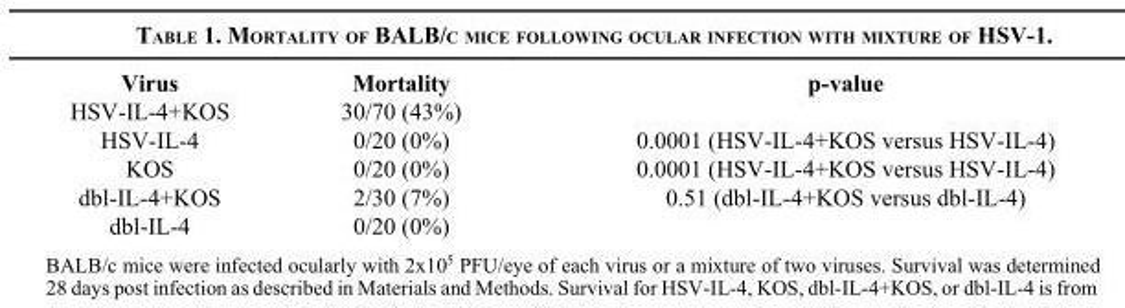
<table><thead><tr><td>Virus</td><td>Mortality</td><td>p-value</td></tr></thead><tbody><tr><td>HSV-IL-4+KOS</td><td>30/70 (43%)</td><td></td></tr><tr><td>HSV-IL-4</td><td>0/20 (0%)</td><td>0.0001 (HSV-IL-4+KOS versus HSV-IL-4)</td></tr><tr><td>KOS</td><td>0/20 (0%)</td><td>0.0001 (HSV-IL-4+KOS versus HSV-IL-4)</td></tr><tr><td>dbl-IL-4+KOS</td><td>2/30 (7%)</td><td>0.51 (dbl-IL-4+KOS versus dbl-IL-4)</td></tr><tr><td>dbl-IL-4</td><td>0/20 (0%)</td><td></td></tr></tbody></table>